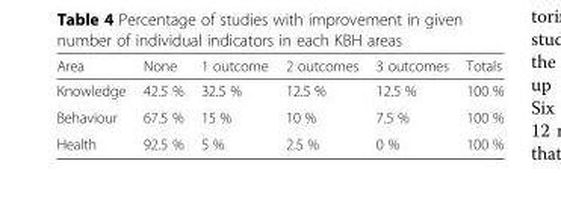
<table><thead><tr><td>Area</td><td>None</td><td>1 outcome</td><td>2 outcomes</td><td>3 outcomes</td><td>Totals</td></tr></thead><tbody><tr><td>Knowledge</td><td>42.5 %</td><td>32.5 %</td><td>12.5 %</td><td>12.5 %</td><td>100 %</td></tr><tr><td>Behaviour</td><td>67.5 %</td><td>15 %</td><td>10 %</td><td>7.5 %</td><td>100 %</td></tr><tr><td>Health</td><td>92.5 %</td><td>5 %</td><td>2.5 %</td><td>0 %</td><td>100 %</td></tr></tbody></table>